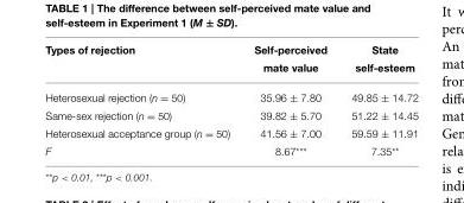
<table><thead><tr><td>Types of rejection</td><td>Self-perceived mate value</td><td>State self-esteem</td></tr></thead><tbody><tr><td>Heterosexual rejection (n = 50)</td><td>35.96 ± 7.80</td><td>49.85 ± 14.72</td></tr><tr><td>Same-sex rejection (n = 50)</td><td>39.82 ± 5.70</td><td>51.22 ± 14.45</td></tr><tr><td>Heterosexual acceptance group (n = 50)</td><td>41.56 ± 7.00</td><td>59.59 ± 11.91</td></tr><tr><td>F</td><td>8.67***</td><td>7.35**</td></tr></tbody></table>